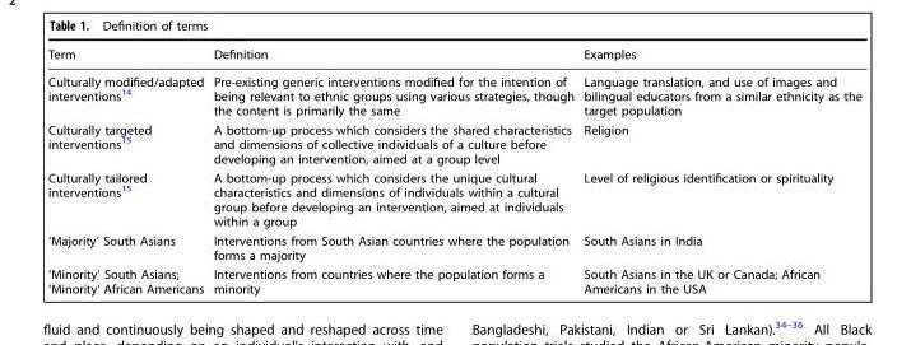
<table><thead><tr><td>Term</td><td>Definition</td><td>Examples</td></tr></thead><tbody><tr><td>Culturally modified/adapted interventions<sup>14</sup></td><td>Pre-existing generic interventions modified for the intention of being relevant to ethnic groups using various strategies, though the content is primarily the same</td><td>Language translation, and use of images and bilingual educators from a similar ethnicity as the target population</td></tr><tr><td>Culturally targeted interventions<sup>15</sup></td><td>A bottom-up process which considers the shared characteristics and dimensions of collective individuals of a culture before developing an intervention, aimed at a group level</td><td>Religion</td></tr><tr><td>Culturally tailored interventions<sup>15</sup></td><td>A bottom-up process which considers the unique cultural characteristics and dimensions of individuals within a cultural group before developing an intervention, aimed at individuals within a group</td><td>Level of religious identification or spirituality</td></tr><tr><td>‘Majority’ South Asians</td><td>Interventions from South Asian countries where the population forms a majority</td><td>South Asians in India</td></tr><tr><td>‘Minority’ South Asians; ‘Minority’ African Americans</td><td>Interventions from countries where the population forms a minority</td><td>South Asians in the UK or Canada; African Americans in the USA</td></tr></tbody></table>